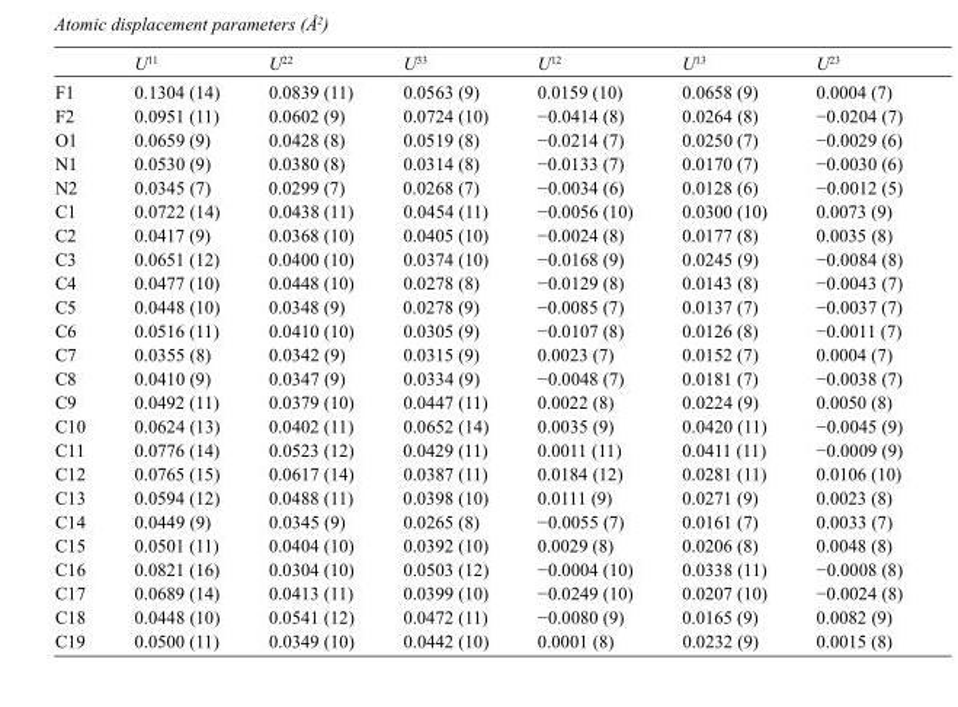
<table><thead><tr><td></td><td>U<sup>11</sup></td><td>U<sup>22</sup></td><td>U<sup>33</sup></td><td>U<sup>12</sup></td><td>U<sup>13</sup></td><td>U<sup>23</sup></td></tr></thead><tbody><tr><td>F1</td><td>0.1304 (14)</td><td>0.0839 (11)</td><td>0.0563 (9)</td><td>0.0159 (10)</td><td>0.0658 (9)</td><td>0.0004 (7)</td></tr><tr><td>F2</td><td>0.0951 (11)</td><td>0.0602 (9)</td><td>0.0724 (10)</td><td>−0.0414 (8)</td><td>0.0264 (8)</td><td>−0.0204 (7)</td></tr><tr><td>O1</td><td>0.0659 (9)</td><td>0.0428 (8)</td><td>0.0519 (8)</td><td>−0.0214 (7)</td><td>0.0250 (7)</td><td>−0.0029 (6)</td></tr><tr><td>N1</td><td>0.0530 (9)</td><td>0.0380 (8)</td><td>0.0314 (8)</td><td>−0.0133 (7)</td><td>0.0170 (7)</td><td>−0.0030 (6)</td></tr><tr><td>N2</td><td>0.0345 (7)</td><td>0.0299 (7)</td><td>0.0268 (7)</td><td>−0.0034 (6)</td><td>0.0128 (6)</td><td>−0.0012 (5)</td></tr><tr><td>C1</td><td>0.0722 (14)</td><td>0.0438 (11)</td><td>0.0454 (11)</td><td>−0.0056 (10)</td><td>0.0300 (10)</td><td>0.0073 (9)</td></tr><tr><td>C2</td><td>0.0417 (9)</td><td>0.0368 (10)</td><td>0.0405 (10)</td><td>−0.0024 (8)</td><td>0.0177 (8)</td><td>0.0035 (8)</td></tr><tr><td>C3</td><td>0.0651 (12)</td><td>0.0400 (10)</td><td>0.0374 (10)</td><td>−0.0168 (9)</td><td>0.0245 (9)</td><td>−0.0084 (8)</td></tr><tr><td>C4</td><td>0.0477 (10)</td><td>0.0448 (10)</td><td>0.0278 (8)</td><td>−0.0129 (8)</td><td>0.0143 (8)</td><td>−0.0043 (7)</td></tr><tr><td>C5</td><td>0.0448 (10)</td><td>0.0348 (9)</td><td>0.0278 (9)</td><td>−0.0085 (7)</td><td>0.0137 (7)</td><td>−0.0037 (7)</td></tr><tr><td>C6</td><td>0.0516 (11)</td><td>0.0410 (10)</td><td>0.0305 (9)</td><td>−0.0107 (8)</td><td>0.0126 (8)</td><td>−0.0011 (7)</td></tr><tr><td>C7</td><td>0.0355 (8)</td><td>0.0342 (9)</td><td>0.0315 (9)</td><td>0.0023 (7)</td><td>0.0152 (7)</td><td>0.0004 (7)</td></tr><tr><td>C8</td><td>0.0410 (9)</td><td>0.0347 (9)</td><td>0.0334 (9)</td><td>−0.0048 (7)</td><td>0.0181 (7)</td><td>−0.0038 (7)</td></tr><tr><td>C9</td><td>0.0492 (11)</td><td>0.0379 (10)</td><td>0.0447 (11)</td><td>0.0022 (8)</td><td>0.0224 (9)</td><td>0.0050 (8)</td></tr><tr><td>C10</td><td>0.0624 (13)</td><td>0.0402 (11)</td><td>0.0652 (14)</td><td>0.0035 (9)</td><td>0.0420 (11)</td><td>−0.0045 (9)</td></tr><tr><td>C11</td><td>0.0776 (14)</td><td>0.0523 (12)</td><td>0.0429 (11)</td><td>0.0011 (11)</td><td>0.0411 (11)</td><td>−0.0009 (9)</td></tr><tr><td>C12</td><td>0.0765 (15)</td><td>0.0617 (14)</td><td>0.0387 (11)</td><td>0.0184 (12)</td><td>0.0281 (11)</td><td>0.0106 (10)</td></tr><tr><td>C13</td><td>0.0594 (12)</td><td>0.0488 (11)</td><td>0.0398 (10)</td><td>0.0111 (9)</td><td>0.0271 (9)</td><td>0.0023 (8)</td></tr><tr><td>C14</td><td>0.0449 (9)</td><td>0.0345 (9)</td><td>0.0265 (8)</td><td>−0.0055 (7)</td><td>0.0161 (7)</td><td>0.0033 (7)</td></tr><tr><td>C15</td><td>0.0501 (11)</td><td>0.0404 (10)</td><td>0.0392 (10)</td><td>0.0029 (8)</td><td>0.0206 (8)</td><td>0.0048 (8)</td></tr><tr><td>C16</td><td>0.0821 (16)</td><td>0.0304 (10)</td><td>0.0503 (12)</td><td>−0.0004 (10)</td><td>0.0338 (11)</td><td>−0.0008 (8)</td></tr><tr><td>C17</td><td>0.0689 (14)</td><td>0.0413 (11)</td><td>0.0399 (10)</td><td>−0.0249 (10)</td><td>0.0207 (10)</td><td>−0.0024 (8)</td></tr><tr><td>C18</td><td>0.0448 (10)</td><td>0.0541 (12)</td><td>0.0472 (11)</td><td>−0.0080 (9)</td><td>0.0165 (9)</td><td>0.0082 (9)</td></tr><tr><td>C19</td><td>0.0500 (11)</td><td>0.0349 (10)</td><td>0.0442 (10)</td><td>0.0001 (8)</td><td>0.0232 (9)</td><td>0.0015 (8)</td></tr></tbody></table>